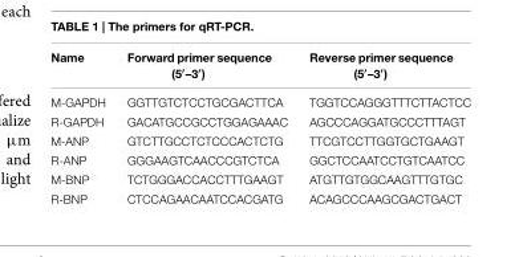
<table><thead><tr><td>Name</td><td>Forward primer sequence (5′–3′)</td><td>Reverse primer sequence (5′–3′)</td></tr></thead><tbody><tr><td>M-GAPDH</td><td>GGTTGTCTCCTGCGACTTCA</td><td>TGGTCCAGGGTTTCTTACTCC</td></tr><tr><td>R-GAPDH</td><td>GACATGCCGCCTGGAGAAAC</td><td>AGCCCAGGATGCCCTTTAGT</td></tr><tr><td>M-ANP</td><td>GTCTTGCCTCTCCCACTCTG</td><td>TTCGTCCTTGGTGCTGAAGT</td></tr><tr><td>R-ANP</td><td>GGGAAGTCAACCCGTCTCA</td><td>GGCTCCAATCCTGTCAATCC</td></tr><tr><td>M-BNP</td><td>TCTGGGACCACCTTTGAAGT</td><td>ATGTTGTGGCAAGTTTGTGC</td></tr><tr><td>R-BNP</td><td>CTCCAGAACAATCCACGATG</td><td>ACAGCCCAAGCGACTGACT</td></tr></tbody></table>